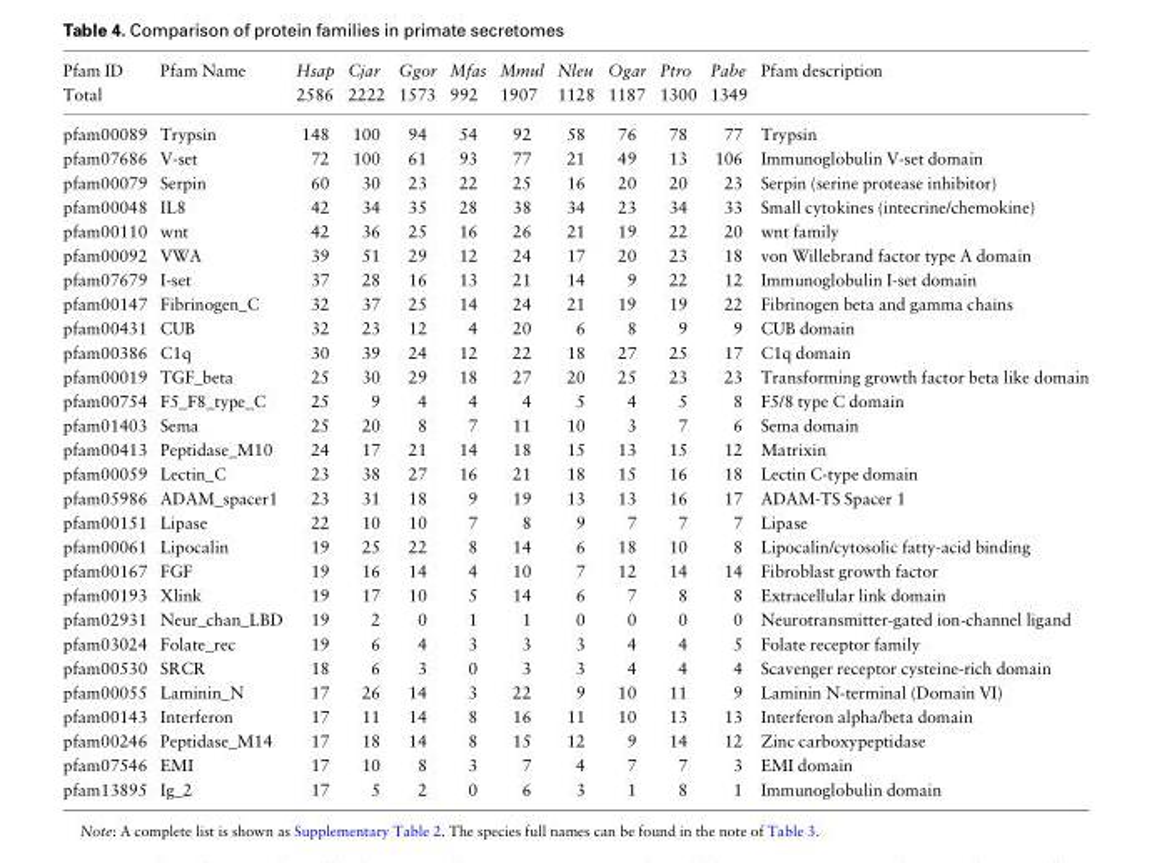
<table><thead><tr><td rowspan="2">Pfam ID Total</td><td rowspan="2">Pfam Name</td><td rowspan="2">Hsap 2586</td><td rowspan="2">Cjar 2222</td><td rowspan="2">Ggor 1573</td><td rowspan="2">Mfas 992</td><td rowspan="2">Mmul 1907</td><td rowspan="2">Nleu 1128</td><td rowspan="2">Ogar 1187</td><td rowspan="2">Ptro 1300</td><td rowspan="2">Pabe 1349</td><td rowspan="2">Pfam description</td></tr><tr></tr></thead><tbody><tr><td>pfam00089</td><td>Trypsin</td><td>148</td><td>100</td><td>94</td><td>54</td><td>92</td><td>58</td><td>76</td><td>78</td><td>77</td><td>Trypsin</td></tr><tr><td>pfam07686</td><td>V-set</td><td>72</td><td>100</td><td>61</td><td>93</td><td>77</td><td>21</td><td>49</td><td>13</td><td>106</td><td>Immunoglobulin V-set domain</td></tr><tr><td>pfam00079</td><td>Serpin</td><td>60</td><td>30</td><td>23</td><td>22</td><td>25</td><td>16</td><td>20</td><td>20</td><td>23</td><td>Serpin (serine protease inhibitor)</td></tr><tr><td>pfam00048</td><td>IL8</td><td>42</td><td>34</td><td>35</td><td>28</td><td>38</td><td>34</td><td>23</td><td>34</td><td>33</td><td>Small cytokines (intecrine/chemokine)</td></tr><tr><td>pfam00110</td><td>wnt</td><td>42</td><td>36</td><td>25</td><td>16</td><td>26</td><td>21</td><td>19</td><td>22</td><td>20</td><td>wnt family</td></tr><tr><td>pfam00092</td><td>VWA</td><td>39</td><td>51</td><td>29</td><td>12</td><td>24</td><td>17</td><td>20</td><td>23</td><td>18</td><td>von Willebrand factor type A domain</td></tr><tr><td>pfam07679</td><td>I-set</td><td>37</td><td>28</td><td>16</td><td>13</td><td>21</td><td>14</td><td>9</td><td>22</td><td>12</td><td>Immunoglobulin I-set domain</td></tr><tr><td>pfam00147</td><td>Fibrinogen_C</td><td>32</td><td>37</td><td>25</td><td>14</td><td>24</td><td>21</td><td>19</td><td>19</td><td>22</td><td>Fibrinogen beta and gamma chains</td></tr><tr><td>pfam00431</td><td>CUB</td><td>32</td><td>23</td><td>12</td><td>4</td><td>20</td><td>6</td><td>8</td><td>9</td><td>9</td><td>CUB domain</td></tr><tr><td>pfam00386</td><td>C1q</td><td>30</td><td>39</td><td>24</td><td>12</td><td>22</td><td>18</td><td>27</td><td>25</td><td>17</td><td>C1q domain</td></tr><tr><td>pfam00019</td><td>TGF_beta</td><td>25</td><td>30</td><td>29</td><td>18</td><td>27</td><td>20</td><td>25</td><td>23</td><td>23</td><td>Transforming growth factor beta like domain</td></tr><tr><td>pfam00754</td><td>F5_F8_type_C</td><td>25</td><td>9</td><td>4</td><td>4</td><td>4</td><td>5</td><td>4</td><td>5</td><td>8</td><td>F5/8 type C domain</td></tr><tr><td>pfam01403</td><td>Sema</td><td>25</td><td>20</td><td>8</td><td>7</td><td>11</td><td>10</td><td>3</td><td>7</td><td>6</td><td>Sema domain</td></tr><tr><td>pfam00413</td><td>Peptidase_M10</td><td>24</td><td>17</td><td>21</td><td>14</td><td>18</td><td>15</td><td>13</td><td>15</td><td>12</td><td>Matrixin</td></tr><tr><td>pfam00059</td><td>Lectin_C</td><td>23</td><td>38</td><td>27</td><td>16</td><td>21</td><td>18</td><td>15</td><td>16</td><td>18</td><td>Lectin C-type domain</td></tr><tr><td>pfam05986</td><td>ADAM_spacer1</td><td>23</td><td>31</td><td>18</td><td>9</td><td>19</td><td>13</td><td>13</td><td>16</td><td>17</td><td>ADAM-TS Spacer 1</td></tr><tr><td>pfam00151</td><td>Lipase</td><td>22</td><td>10</td><td>10</td><td>7</td><td>8</td><td>9</td><td>7</td><td>7</td><td>7</td><td>Lipase</td></tr><tr><td>pfam00061</td><td>Lipocalin</td><td>19</td><td>25</td><td>22</td><td>8</td><td>14</td><td>6</td><td>18</td><td>10</td><td>8</td><td>Lipocalin/cytosolic fatty-acid binding</td></tr><tr><td>pfam00167</td><td>FGF</td><td>19</td><td>16</td><td>14</td><td>4</td><td>10</td><td>7</td><td>12</td><td>14</td><td>14</td><td>Fibroblast growth factor</td></tr><tr><td>pfam00193</td><td>Xlink</td><td>19</td><td>17</td><td>10</td><td>5</td><td>14</td><td>6</td><td>7</td><td>8</td><td>8</td><td>Extracellular link domain</td></tr><tr><td>pfam02931</td><td>Neur_chan_LBD</td><td>19</td><td>2</td><td>0</td><td>1</td><td>1</td><td>0</td><td>0</td><td>0</td><td>0</td><td>Neurotransmitter-gated ion-channel ligand</td></tr><tr><td>pfam03024</td><td>Folate_rec</td><td>19</td><td>6</td><td>4</td><td>3</td><td>3</td><td>3</td><td>4</td><td>4</td><td>5</td><td>Folate receptor family</td></tr><tr><td>pfam00530</td><td>SRCR</td><td>18</td><td>6</td><td>3</td><td>0</td><td>3</td><td>3</td><td>4</td><td>4</td><td>4</td><td>Scavenger receptor cysteine-rich domain</td></tr><tr><td>pfam00055</td><td>Laminin_N</td><td>17</td><td>26</td><td>14</td><td>3</td><td>22</td><td>9</td><td>10</td><td>11</td><td>9</td><td>Laminin N-terminal (Domain VI)</td></tr><tr><td>pfam00143</td><td>Interferon</td><td>17</td><td>11</td><td>14</td><td>8</td><td>16</td><td>11</td><td>10</td><td>13</td><td>13</td><td>Interferon alpha/beta domain</td></tr><tr><td>pfam00246</td><td>Peptidase_M14</td><td>17</td><td>18</td><td>14</td><td>8</td><td>15</td><td>12</td><td>9</td><td>14</td><td>12</td><td>Zinc carboxypeptidase</td></tr><tr><td>pfam07546</td><td>EMI</td><td>17</td><td>10</td><td>8</td><td>3</td><td>7</td><td>4</td><td>7</td><td>7</td><td>3</td><td>EMI domain</td></tr><tr><td>pfam13895</td><td>Ig_2</td><td>17</td><td>5</td><td>2</td><td>0</td><td>6</td><td>3</td><td>1</td><td>8</td><td>1</td><td>Immunoglobulin domain</td></tr></tbody></table>